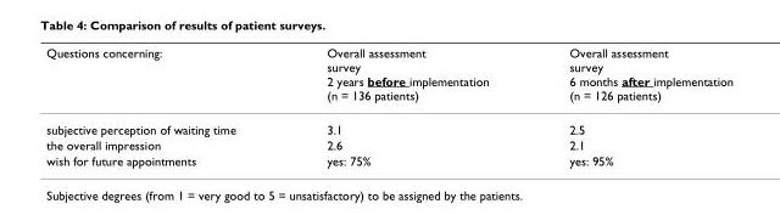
<table><thead><tr><td>Questions concerning:</td><td>Overall assessment survey 2 years before implementation (n = 136 patients)</td><td>Overall assessment survey 6 months after implementation (n = 126 patients)</td></tr></thead><tbody><tr><td>subjective perception of waiting time</td><td>3.1</td><td>2.5</td></tr><tr><td>the overall impression</td><td>2.6</td><td>2.1</td></tr><tr><td>wish for future appointments</td><td>yes: 75%</td><td>yes: 95%</td></tr></tbody></table>